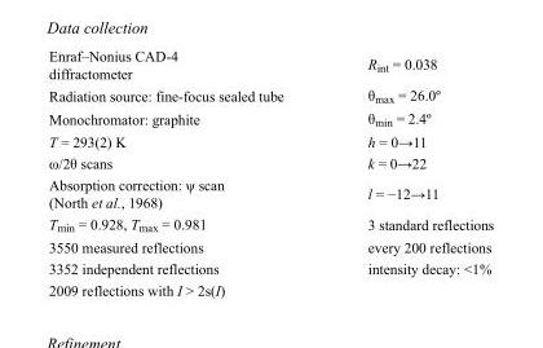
<table><tbody><tr><td>Enraf–Nonius CAD-4 diffractometer</td><td>R<sub>int</sub> = 0.038</td></tr><tr><td>Radiation source: fine-focus sealed tube</td><td>θ<sub>max</sub> = 26.0º</td></tr><tr><td>Monochromator: graphite</td><td>θ<sub>min</sub> = 2.4º</td></tr><tr><td>T = 293(2) K</td><td>h = 0→11</td></tr><tr><td>ω/2θ scans</td><td>k = 0→22</td></tr><tr><td>Absorption correction: ψ scan (North et al., 1968)</td><td>l = −12→11</td></tr><tr><td>T<sub>min</sub> = 0.928, T<sub>max</sub> = 0.981</td><td>3 standard reflections</td></tr><tr><td>3550 measured reflections</td><td>every 200 reflections</td></tr><tr><td>3352 independent reflections</td><td>intensity decay: &lt;1%</td></tr><tr><td>2009 reflections with I &gt; 2s(I)</td><td></td></tr></tbody></table>